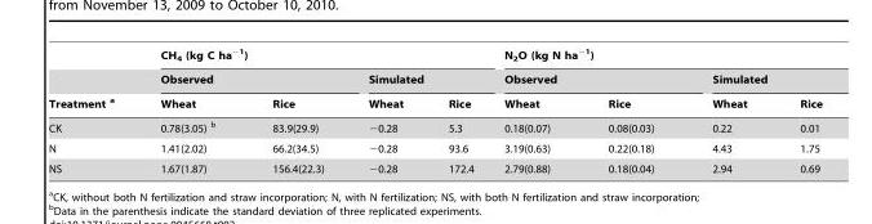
<table><thead><tr><td rowspan="3">Treatment a</td><td colspan="4">CH<sub>4</sub> (kg C ha<sup>−1</sup>)</td><td colspan="4">N<sub>2</sub>O (kg N ha<sup>−1</sup>)</td></tr><tr><td colspan="2">Observed</td><td colspan="2">Simulated</td><td colspan="2">Observed</td><td colspan="2">Simulated</td></tr><tr><td>Wheat</td><td>Rice</td><td>Wheat</td><td>Rice</td><td>Wheat</td><td>Rice</td><td>Wheat</td><td>Rice</td></tr></thead><tbody><tr><td>CK</td><td>0.78(3.05) b</td><td>83.9(29.9)</td><td>−0.28</td><td>5.3</td><td>0.18(0.07)</td><td>0.08(0.03)</td><td>0.22</td><td>0.01</td></tr><tr><td>N</td><td>1.41(2.02)</td><td>66.2(34.5)</td><td>−0.28</td><td>93.6</td><td>3.19(0.63)</td><td>0.22(0.18)</td><td>4.43</td><td>1.75</td></tr><tr><td>NS</td><td>1.67(1.87)</td><td>156.4(22.3)</td><td>−0.28</td><td>172.4</td><td>2.79(0.88)</td><td>0.18(0.04)</td><td>2.94</td><td>0.69</td></tr></tbody></table>